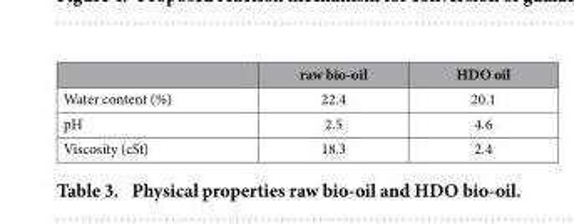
<table><thead><tr><td></td><td>raw bio-oil</td><td>HDO oil</td></tr></thead><tbody><tr><td>Water content (%)</td><td>22.4</td><td>20.1</td></tr><tr><td>pH</td><td>2.5</td><td>4.6</td></tr><tr><td>Viscosity (cSt)</td><td>18.3</td><td>2.4</td></tr></tbody></table>